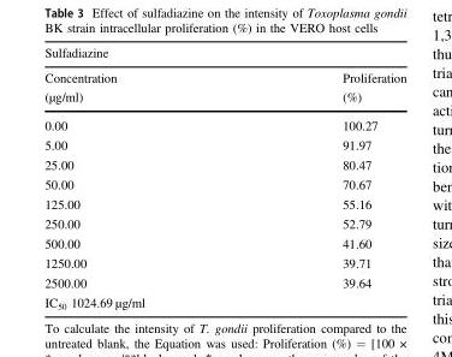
<table><thead><tr><td colspan="2">Sulfadiazine</td></tr><tr><td rowspan="2">Concentration (µg/ml)</td><td rowspan="2">Proliferation (%)</td></tr><tr></tr></thead><tbody><tr><td>0.00</td><td>100.27</td></tr><tr><td>5.00</td><td>91.97</td></tr><tr><td>25.00</td><td>80.47</td></tr><tr><td>50.00</td><td>70.67</td></tr><tr><td>125.00</td><td>55.16</td></tr><tr><td>250.00</td><td>52.79</td></tr><tr><td>500.00</td><td>41.60</td></tr><tr><td>1250.00</td><td>39.71</td></tr><tr><td>2500.00</td><td>39.64</td></tr><tr><td colspan="2">IC<sub>50</sub> 1024.69 µg/ml</td></tr></tbody></table>